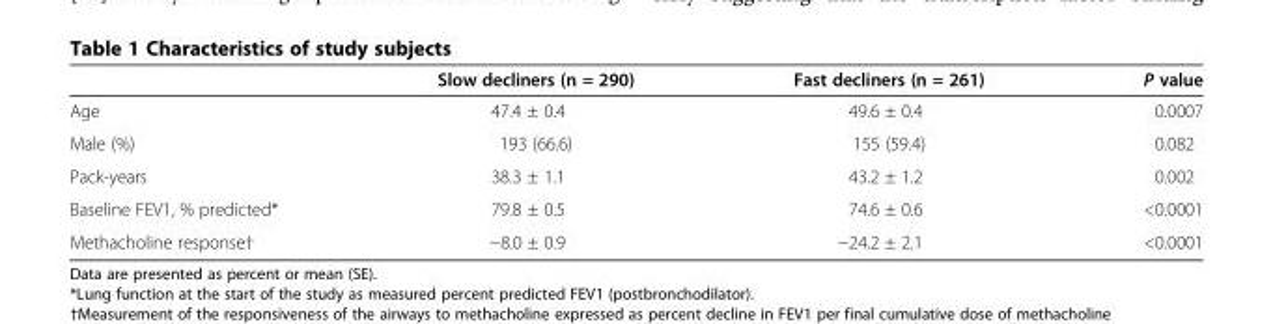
<table><thead><tr><td></td><td>Slow decliners (n = 290)</td><td>Fast decliners (n = 261)</td><td>P value</td></tr></thead><tbody><tr><td>Age</td><td>47.4 ± 0.4</td><td>49.6 ± 0.4</td><td>0.0007</td></tr><tr><td>Male (%)</td><td>193 (66.6)</td><td>155 (59.4)</td><td>0.082</td></tr><tr><td>Pack-years</td><td>38.3 ± 1.1</td><td>43.2 ± 1.2</td><td>0.002</td></tr><tr><td>Baseline FEV1, % predicted*</td><td>79.8 ± 0.5</td><td>74.6 ± 0.6</td><td>&lt;0.0001</td></tr><tr><td>Methacholine response†</td><td>−8.0 ± 0.9</td><td>−24.2 ± 2.1</td><td>&lt;0.0001</td></tr></tbody></table>